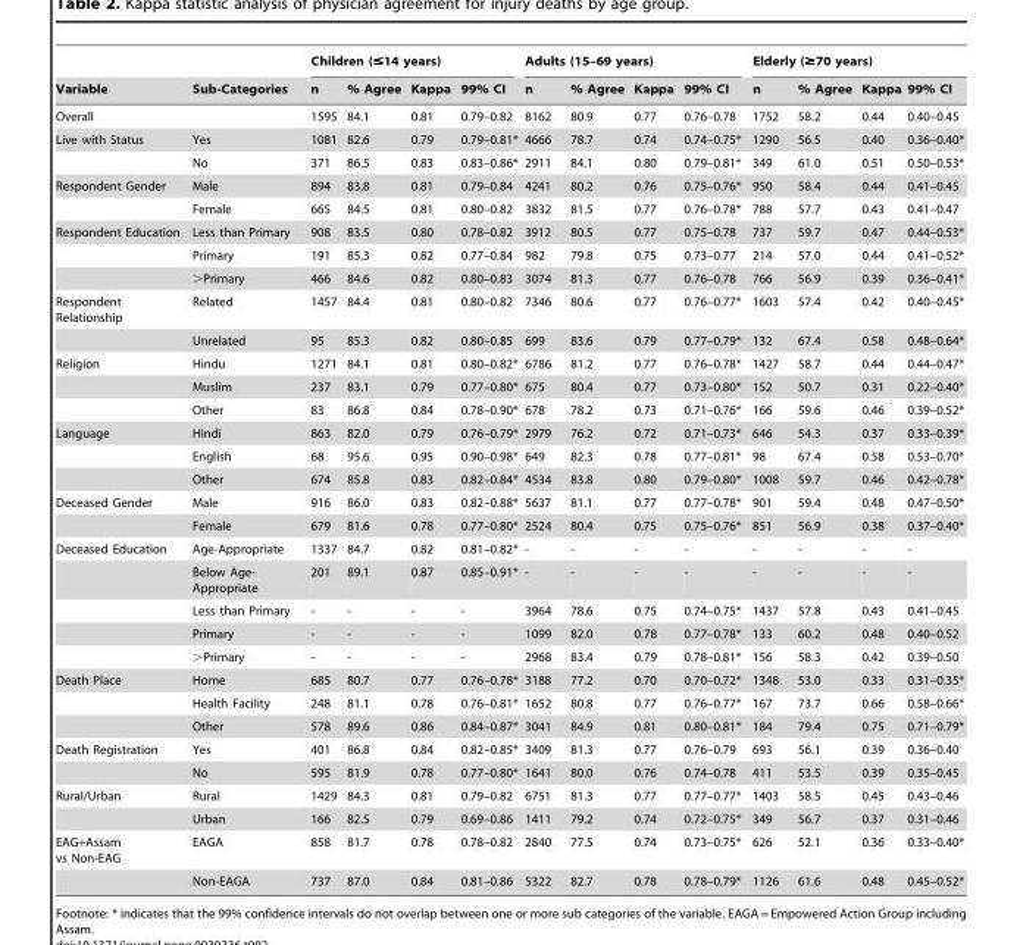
<table><thead><tr><td rowspan="2">Variable</td><td rowspan="2">Sub-Categories</td><td colspan="4">Children (≤14 years)</td><td colspan="4">Adults (15–69 years)</td><td colspan="4">Elderly (≥70 years)</td></tr><tr><td>n</td><td>% Agree</td><td>Kappa</td><td>99% CI</td><td>n</td><td>% Agree</td><td>Kappa</td><td>99% CI</td><td>n</td><td>% Agree</td><td>Kappa</td><td>99% CI</td></tr></thead><tbody><tr><td>Overall</td><td></td><td>1595</td><td>84.1</td><td>0.81</td><td>0.79–0.82</td><td>8162</td><td>80.9</td><td>0.77</td><td>0.76–0.78</td><td>1752</td><td>58.2</td><td>0.44</td><td>0.40–0.45</td></tr><tr><td rowspan="2">Live with Status</td><td>Yes</td><td>1081</td><td>82.6</td><td>0.79</td><td>0.79–0.81*</td><td>4666</td><td>78.7</td><td>0.74</td><td>0.74–0.75*</td><td>1290</td><td>56.5</td><td>0.40</td><td>0.36–0.40*</td></tr><tr><td>No</td><td>371</td><td>86.5</td><td>0.83</td><td>0.83–0.86*</td><td>2911</td><td>84.1</td><td>0.80</td><td>0.79–0.81*</td><td>349</td><td>61.0</td><td>0.51</td><td>0.50–0.53*</td></tr><tr><td rowspan="2">Respondent Gender</td><td>Male</td><td>894</td><td>83.8</td><td>0.81</td><td>0.79–0.84</td><td>4241</td><td>80.2</td><td>0.76</td><td>0.75–0.76*</td><td>950</td><td>58.4</td><td>0.44</td><td>0.41–0.45</td></tr><tr><td>Female</td><td>665</td><td>84.5</td><td>0.81</td><td>0.80–0.82</td><td>3832</td><td>81.5</td><td>0.77</td><td>0.76–0.78*</td><td>788</td><td>57.7</td><td>0.43</td><td>0.41–0.47</td></tr><tr><td rowspan="3">Respondent Education</td><td>Less than Primary</td><td>908</td><td>83.5</td><td>0.80</td><td>0.78–0.82</td><td>3912</td><td>80.5</td><td>0.77</td><td>0.75–0.78</td><td>737</td><td>59.7</td><td>0.47</td><td>0.44–0.53*</td></tr><tr><td>Primary</td><td>191</td><td>85.3</td><td>0.82</td><td>0.77–0.84</td><td>982</td><td>79.8</td><td>0.75</td><td>0.73–0.77</td><td>214</td><td>57.0</td><td>0.44</td><td>0.41–0.52*</td></tr><tr><td>&gt;Primary</td><td>466</td><td>84.6</td><td>0.82</td><td>0.80–0.83</td><td>3074</td><td>81.3</td><td>0.77</td><td>0.76–0.78</td><td>766</td><td>56.9</td><td>0.39</td><td>0.36–0.41*</td></tr><tr><td rowspan="2">Respondent Relationship</td><td>Related</td><td>1457</td><td>84.4</td><td>0.81</td><td>0.80–0.82</td><td>7346</td><td>80.6</td><td>0.77</td><td>0.76–0.77*</td><td>1603</td><td>57.4</td><td>0.42</td><td>0.40–0.45*</td></tr><tr><td>Unrelated</td><td>95</td><td>85.3</td><td>0.82</td><td>0.80–0.85</td><td>699</td><td>83.6</td><td>0.79</td><td>0.77–0.79*</td><td>132</td><td>67.4</td><td>0.58</td><td>0.48–0.64*</td></tr><tr><td rowspan="3">Religion</td><td>Hindu</td><td>1271</td><td>84.1</td><td>0.81</td><td>0.80–0.82*</td><td>6786</td><td>81.2</td><td>0.77</td><td>0.76–0.78*</td><td>1427</td><td>58.7</td><td>0.44</td><td>0.44–0.47*</td></tr><tr><td>Muslim</td><td>237</td><td>83.1</td><td>0.79</td><td>0.77–0.80*</td><td>675</td><td>80.4</td><td>0.77</td><td>0.73–0.80*</td><td>152</td><td>50.7</td><td>0.31</td><td>0.22–0.40*</td></tr><tr><td>Other</td><td>83</td><td>86.8</td><td>0.84</td><td>0.78–0.90*</td><td>678</td><td>78.2</td><td>0.73</td><td>0.71–0.76*</td><td>166</td><td>59.6</td><td>0.46</td><td>0.39–0.52*</td></tr><tr><td rowspan="3">Language</td><td>Hindi</td><td>863</td><td>82.0</td><td>0.79</td><td>0.76–0.79*</td><td>2979</td><td>76.2</td><td>0.72</td><td>0.71–0.73*</td><td>646</td><td>54.3</td><td>0.37</td><td>0.33–0.39*</td></tr><tr><td>English</td><td>68</td><td>95.6</td><td>0.95</td><td>0.90–0.98*</td><td>649</td><td>82.3</td><td>0.78</td><td>0.77–0.81*</td><td>98</td><td>67.4</td><td>0.58</td><td>0.53–0.70*</td></tr><tr><td>Other</td><td>674</td><td>85.8</td><td>0.83</td><td>0.82–0.84*</td><td>4534</td><td>83.8</td><td>0.80</td><td>0.79–0.80*</td><td>1008</td><td>59.7</td><td>0.46</td><td>0.42–0.78*</td></tr><tr><td rowspan="2">Deceased Gender</td><td>Male</td><td>916</td><td>86.0</td><td>0.83</td><td>0.82–0.88*</td><td>5637</td><td>81.1</td><td>0.77</td><td>0.77–0.78*</td><td>901</td><td>59.4</td><td>0.48</td><td>0.47–0.50*</td></tr><tr><td>Female</td><td>679</td><td>81.6</td><td>0.78</td><td>0.77–0.80*</td><td>2524</td><td>80.4</td><td>0.75</td><td>0.75–0.76*</td><td>851</td><td>56.9</td><td>0.38</td><td>0.37–0.40*</td></tr><tr><td rowspan="5">Deceased Education</td><td>Age-Appropriate</td><td>1337</td><td>84.7</td><td>0.82</td><td>0.81–0.82*</td><td>-</td><td>-</td><td>-</td><td>-</td><td>-</td><td>-</td><td>-</td><td>-</td></tr><tr><td>Below Age- Appropriate</td><td>201</td><td>89.1</td><td>0.87</td><td>0.85–0.91*</td><td>-</td><td>-</td><td>-</td><td>-</td><td>-</td><td>-</td><td>-</td><td>-</td></tr><tr><td>Less than Primary</td><td>-</td><td>-</td><td>-</td><td>-</td><td>3964</td><td>78.6</td><td>0.75</td><td>0.74–0.75*</td><td>1437</td><td>57.8</td><td>0.43</td><td>0.41–0.45</td></tr><tr><td>Primary</td><td>-</td><td>-</td><td>-</td><td>-</td><td>1099</td><td>82.0</td><td>0.78</td><td>0.77–0.78*</td><td>133</td><td>60.2</td><td>0.48</td><td>0.40–0.52</td></tr><tr><td>&gt;Primary</td><td>-</td><td>-</td><td>-</td><td>-</td><td>2968</td><td>83.4</td><td>0.79</td><td>0.78–0.81*</td><td>156</td><td>58.3</td><td>0.42</td><td>0.39–0.50</td></tr><tr><td rowspan="3">Death Place</td><td>Home</td><td>685</td><td>80.7</td><td>0.77</td><td>0.76–0.78*</td><td>3188</td><td>77.2</td><td>0.70</td><td>0.70–0.72*</td><td>1348</td><td>53.0</td><td>0.33</td><td>0.31–0.35*</td></tr><tr><td>Health Facility</td><td>248</td><td>81.1</td><td>0.78</td><td>0.76–0.81*</td><td>1652</td><td>80.8</td><td>0.77</td><td>0.76–0.77*</td><td>167</td><td>73.7</td><td>0.66</td><td>0.58–0.66*</td></tr><tr><td>Other</td><td>578</td><td>89.6</td><td>0.86</td><td>0.84–0.87*</td><td>3041</td><td>84.9</td><td>0.81</td><td>0.80–0.81*</td><td>184</td><td>79.4</td><td>0.75</td><td>0.71–0.79*</td></tr><tr><td rowspan="2">Death Registration</td><td>Yes</td><td>401</td><td>86.8</td><td>0.84</td><td>0.82–0.85*</td><td>3409</td><td>81.3</td><td>0.77</td><td>0.76–0.79</td><td>693</td><td>56.1</td><td>0.39</td><td>0.36–0.40</td></tr><tr><td>No</td><td>595</td><td>81.9</td><td>0.78</td><td>0.77–0.80*</td><td>1641</td><td>80.0</td><td>0.76</td><td>0.74–0.78</td><td>411</td><td>53.5</td><td>0.39</td><td>0.35–0.45</td></tr><tr><td rowspan="2">Rural/Urban</td><td>Rural</td><td>1429</td><td>84.3</td><td>0.81</td><td>0.79–0.82</td><td>6751</td><td>81.3</td><td>0.77</td><td>0.77–0.77*</td><td>1403</td><td>58.5</td><td>0.45</td><td>0.43–0.46</td></tr><tr><td>Urban</td><td>166</td><td>82.5</td><td>0.79</td><td>0.69–0.86</td><td>1411</td><td>79.2</td><td>0.74</td><td>0.72–0.75*</td><td>349</td><td>56.7</td><td>0.37</td><td>0.31–0.46</td></tr><tr><td rowspan="2">EAG+Assam vs Non-EAG</td><td>EAGA</td><td>858</td><td>81.7</td><td>0.78</td><td>0.78–0.82</td><td>2840</td><td>77.5</td><td>0.74</td><td>0.73–0.75*</td><td>626</td><td>52.1</td><td>0.36</td><td>0.33–0.40*</td></tr><tr><td>Non-EAGA</td><td>737</td><td>87.0</td><td>0.84</td><td>0.81–0.86</td><td>5322</td><td>82.7</td><td>0.78</td><td>0.78–0.79*</td><td>1126</td><td>61.6</td><td>0.48</td><td>0.45–0.52*</td></tr></tbody></table>